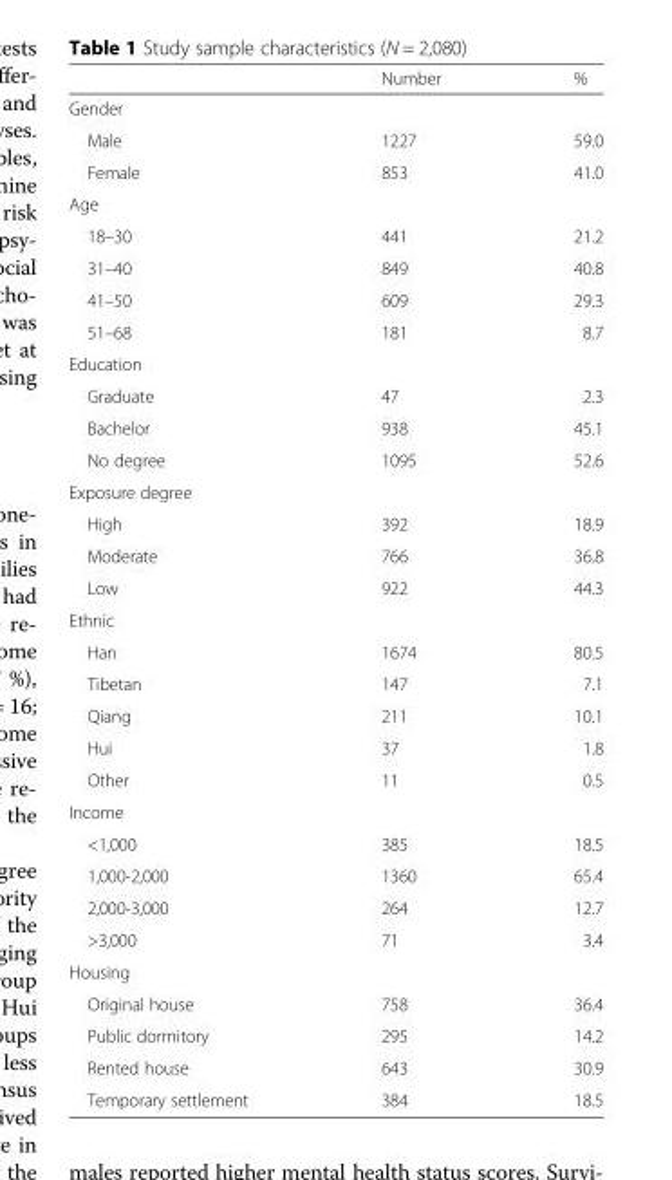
<table><thead><tr><td></td><td>Number</td><td>%</td></tr></thead><tbody><tr><td colspan="3">Gender</td></tr><tr><td>Male</td><td>1227</td><td>59.0</td></tr><tr><td>Female</td><td>853</td><td>41.0</td></tr><tr><td colspan="3">Age</td></tr><tr><td>18–30</td><td>441</td><td>21.2</td></tr><tr><td>31–40</td><td>849</td><td>40.8</td></tr><tr><td>41–50</td><td>609</td><td>29.3</td></tr><tr><td>51–68</td><td>181</td><td>8.7</td></tr><tr><td colspan="3">Education</td></tr><tr><td>Graduate</td><td>47</td><td>2.3</td></tr><tr><td>Bachelor</td><td>938</td><td>45.1</td></tr><tr><td>No degree</td><td>1095</td><td>52.6</td></tr><tr><td colspan="3">Exposure degree</td></tr><tr><td>High</td><td>392</td><td>18.9</td></tr><tr><td>Moderate</td><td>766</td><td>36.8</td></tr><tr><td>Low</td><td>922</td><td>44.3</td></tr><tr><td colspan="3">Ethnic</td></tr><tr><td>Han</td><td>1674</td><td>80.5</td></tr><tr><td>Tibetan</td><td>147</td><td>7.1</td></tr><tr><td>Qiang</td><td>211</td><td>10.1</td></tr><tr><td>Hui</td><td>37</td><td>1.8</td></tr><tr><td>Other</td><td>11</td><td>0.5</td></tr><tr><td colspan="3">Income</td></tr><tr><td>&lt;1,000</td><td>385</td><td>18.5</td></tr><tr><td>1,000-2,000</td><td>1360</td><td>65.4</td></tr><tr><td>2,000-3,000</td><td>264</td><td>12.7</td></tr><tr><td>&gt;3,000</td><td>71</td><td>3.4</td></tr><tr><td colspan="3">Housing</td></tr><tr><td>Original house</td><td>758</td><td>36.4</td></tr><tr><td>Public dormitory</td><td>295</td><td>14.2</td></tr><tr><td>Rented house</td><td>643</td><td>30.9</td></tr><tr><td>Temporary settlement</td><td>384</td><td>18.5</td></tr></tbody></table>